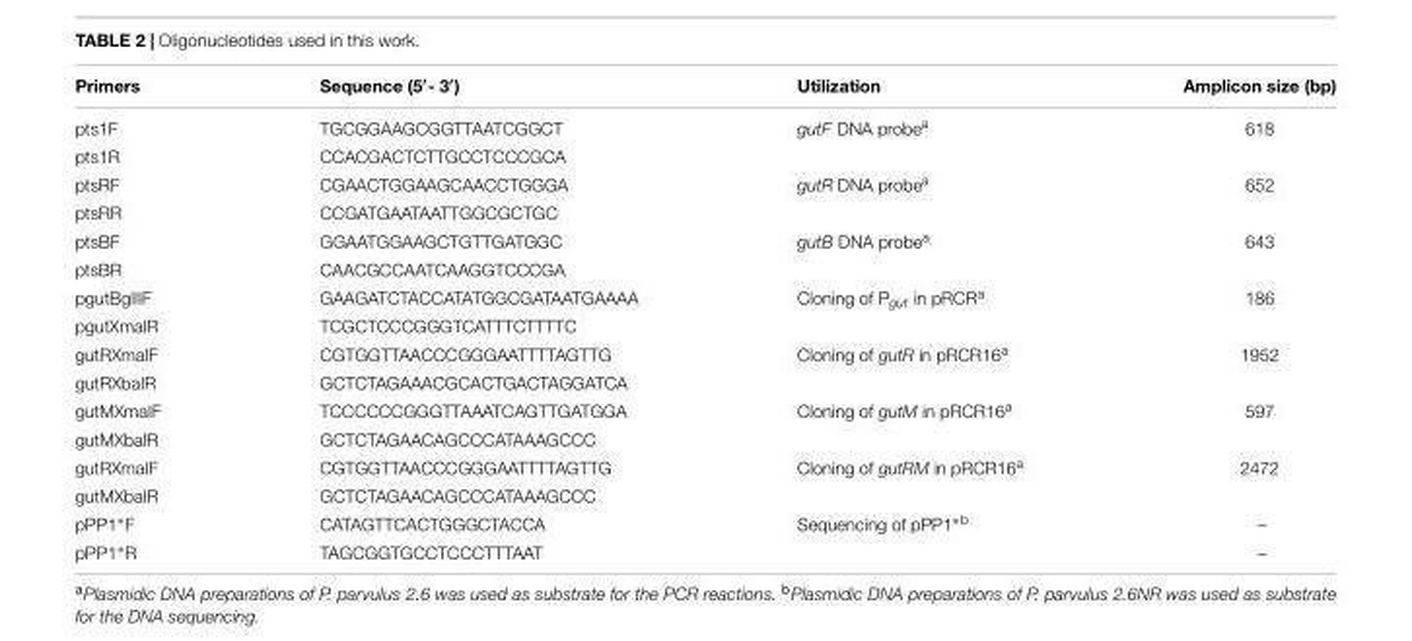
<table><thead><tr><td>Primers</td><td>Sequence (5′- 3′)</td><td>Utilization</td><td>Amplicon size (bp)</td></tr></thead><tbody><tr><td>pts1F</td><td>TGCGGAAGCGGTTAATCGGCT</td><td>gutF DNA probe<sup>a</sup></td><td>618</td></tr><tr><td>pts1R</td><td>CCACGACTCTTGCCTCCCGCA</td><td></td><td></td></tr><tr><td>ptsRF</td><td>CGAACTGGAAGCAACCTGGGA</td><td>gutR DNA probe<sup>a</sup></td><td>652</td></tr><tr><td>ptsRR</td><td>CCGATGAATAATTGGCGCTGC</td><td></td><td></td></tr><tr><td>ptsBF</td><td>GGAATGGAAGCTGTTGATGGC</td><td>gutB DNA probe<sup>a</sup></td><td>643</td></tr><tr><td>ptsBR</td><td>CAACGCCAATCAAGGTCCCGA</td><td></td><td></td></tr><tr><td>pgutBglIIF</td><td>GAAGATCTACCATATGGCGATAATGAAAA</td><td>Cloning of P<sub>gut</sub> in pRCR<sup>a</sup></td><td>186</td></tr><tr><td>pgutXmaIR</td><td>TCGCTCCCGGGTCATTTCTTTTC</td><td></td><td></td></tr><tr><td>gutRXmaIF</td><td>CGTGGTTAACCCGGGAATTTTAGTTG</td><td>Cloning of gutR in pRCR16<sup>a</sup></td><td>1952</td></tr><tr><td>gutRXbaIR</td><td>GCTCTAGAAACGCACTGACTAGGATCA</td><td></td><td></td></tr><tr><td>gutMXmaIF</td><td>TCCCCCCGGGTTAAATCAGTTGATGGA</td><td>Cloning of gutM in pRCR16<sup>a</sup></td><td>597</td></tr><tr><td>gutMXbaIR</td><td>GCTCTAGAACAGCCCATAAAGCCC</td><td></td><td></td></tr><tr><td>gutRXmaIF</td><td>CGTGGTTAACCCGGGAATTTTAGTTG</td><td>Cloning of gutRM in pRCR16<sup>a</sup></td><td>2472</td></tr><tr><td>gutMXbaIR</td><td>GCTCTAGAACAGCCCATAAAGCCC</td><td></td><td></td></tr><tr><td>pPP1∗F</td><td>CATAGTTCACTGGGCTACCA</td><td>Sequencing of pPP1<sup>∗b</sup></td><td>–</td></tr><tr><td>pPP1∗R</td><td>TAGCGGTGCCTCCCTTTAAT</td><td></td><td>–</td></tr></tbody></table>